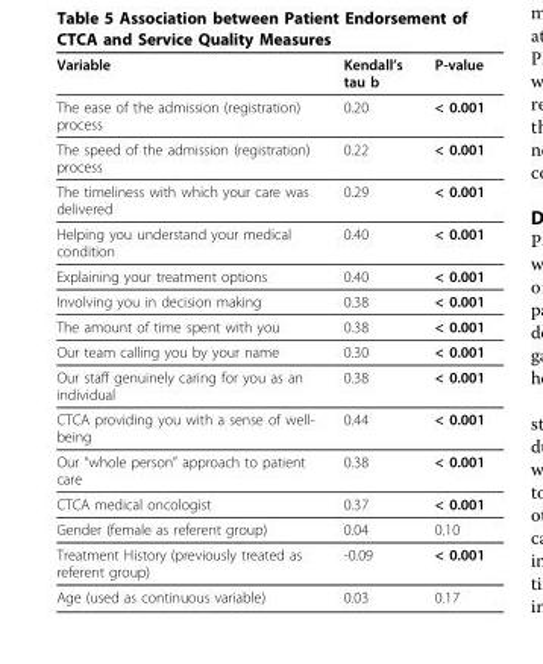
<table><thead><tr><td>Variable</td><td>Kendall’s tau b</td><td>P-value</td></tr></thead><tbody><tr><td>The ease of the admission (registration) process</td><td>0.20</td><td>&lt; 0.001</td></tr><tr><td>The speed of the admission (registration) process</td><td>0.22</td><td>&lt; 0.001</td></tr><tr><td>The timeliness with which your care was delivered</td><td>0.29</td><td>&lt; 0.001</td></tr><tr><td>Helping you understand your medical condition</td><td>0.40</td><td>&lt; 0.001</td></tr><tr><td>Explaining your treatment options</td><td>0.40</td><td>&lt; 0.001</td></tr><tr><td>Involving you in decision making</td><td>0.38</td><td>&lt; 0.001</td></tr><tr><td>The amount of time spent with you</td><td>0.38</td><td>&lt; 0.001</td></tr><tr><td>Our team calling you by your name</td><td>0.30</td><td>&lt; 0.001</td></tr><tr><td>Our staff genuinely caring for you as an individual</td><td>0.38</td><td>&lt; 0.001</td></tr><tr><td>CTCA providing you with a sense of well- being</td><td>0.44</td><td>&lt; 0.001</td></tr><tr><td>Our “whole person” approach to patient care</td><td>0.38</td><td>&lt; 0.001</td></tr><tr><td>CTCA medical oncologist</td><td>0.37</td><td>&lt; 0.001</td></tr><tr><td>Gender (female as referent group)</td><td>0.04</td><td>0.10</td></tr><tr><td>Treatment History (previously treated as referent group)</td><td>-0.09</td><td>&lt; 0.001</td></tr><tr><td>Age (used as continuous variable)</td><td>0.03</td><td>0.17</td></tr></tbody></table>